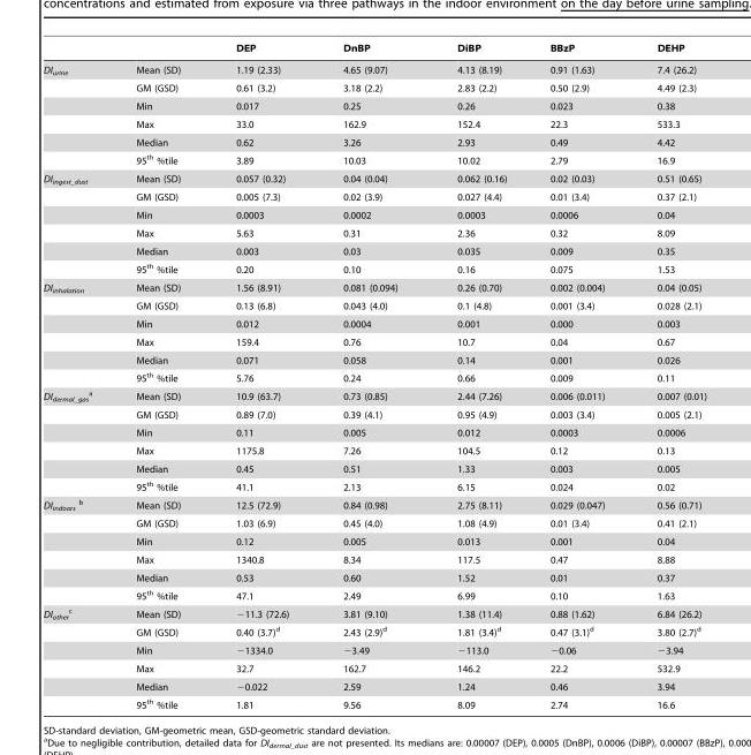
<table><thead><tr><td></td><td></td><td>DEP</td><td>DnBP</td><td>DiBP</td><td>BBzP</td><td>DEHP</td></tr></thead><tbody><tr><td rowspan="6">DI<sub>urine</sub></td><td>Mean (SD)</td><td>1.19 (2.33)</td><td>4.65 (9.07)</td><td>4.13 (8.19)</td><td>0.91 (1.63)</td><td>7.4 (26.2)</td></tr><tr><td>GM (GSD)</td><td>0.61 (3.2)</td><td>3.18 (2.2)</td><td>2.83 (2.2)</td><td>0.50 (2.9)</td><td>4.49 (2.3)</td></tr><tr><td>Min</td><td>0.017</td><td>0.25</td><td>0.26</td><td>0.023</td><td>0.38</td></tr><tr><td>Max</td><td>33.0</td><td>162.9</td><td>152.4</td><td>22.3</td><td>533.3</td></tr><tr><td>Median</td><td>0.62</td><td>3.26</td><td>2.93</td><td>0.49</td><td>4.42</td></tr><tr><td>95<sup>th</sup> %tile</td><td>3.89</td><td>10.03</td><td>10.02</td><td>2.79</td><td>16.9</td></tr><tr><td rowspan="6">DI<sub>ingest_dust</sub></td><td>Mean (SD)</td><td>0.057 (0.32)</td><td>0.04 (0.04)</td><td>0.062 (0.16)</td><td>0.02 (0.03)</td><td>0.51 (0.65)</td></tr><tr><td>GM (GSD)</td><td>0.005 (7.3)</td><td>0.02 (3.9)</td><td>0.027 (4.4)</td><td>0.01 (3.4)</td><td>0.37 (2.1)</td></tr><tr><td>Min</td><td>0.0003</td><td>0.0002</td><td>0.0003</td><td>0.0006</td><td>0.04</td></tr><tr><td>Max</td><td>5.63</td><td>0.31</td><td>2.36</td><td>0.32</td><td>8.09</td></tr><tr><td>Median</td><td>0.003</td><td>0.03</td><td>0.035</td><td>0.009</td><td>0.35</td></tr><tr><td>95<sup>th</sup> %tile</td><td>0.20</td><td>0.10</td><td>0.16</td><td>0.075</td><td>1.53</td></tr><tr><td rowspan="6">DI<sub>inhalation</sub></td><td>Mean (SD)</td><td>1.56 (8.91)</td><td>0.081 (0.094)</td><td>0.26 (0.70)</td><td>0.002 (0.004)</td><td>0.04 (0.05)</td></tr><tr><td>GM (GSD)</td><td>0.13 (6.8)</td><td>0.043 (4.0)</td><td>0.1 (4.8)</td><td>0.001 (3.4)</td><td>0.028 (2.1)</td></tr><tr><td>Min</td><td>0.012</td><td>0.0004</td><td>0.001</td><td>0.000</td><td>0.003</td></tr><tr><td>Max</td><td>159.4</td><td>0.76</td><td>10.7</td><td>0.04</td><td>0.67</td></tr><tr><td>Median</td><td>0.071</td><td>0.058</td><td>0.14</td><td>0.001</td><td>0.026</td></tr><tr><td>95<sup>th</sup> %tile</td><td>5.76</td><td>0.24</td><td>0.66</td><td>0.009</td><td>0.11</td></tr><tr><td rowspan="6">DI<sub>dermal_gas</sub> a</td><td>Mean (SD)</td><td>10.9 (63.7)</td><td>0.73 (0.85)</td><td>2.44 (7.26)</td><td>0.006 (0.011)</td><td>0.007 (0.01)</td></tr><tr><td>GM (GSD)</td><td>0.89 (7.0)</td><td>0.39 (4.1)</td><td>0.95 (4.9)</td><td>0.003 (3.4)</td><td>0.005 (2.1)</td></tr><tr><td>Min</td><td>0.11</td><td>0.005</td><td>0.012</td><td>0.0003</td><td>0.0006</td></tr><tr><td>Max</td><td>1175.8</td><td>7.26</td><td>104.5</td><td>0.12</td><td>0.13</td></tr><tr><td>Median</td><td>0.45</td><td>0.51</td><td>1.33</td><td>0.003</td><td>0.005</td></tr><tr><td>95<sup>th</sup> %tile</td><td>41.1</td><td>2.13</td><td>6.15</td><td>0.024</td><td>0.02</td></tr><tr><td rowspan="6">DI<sub>indoors</sub> b</td><td>Mean (SD)</td><td>12.5 (72.9)</td><td>0.84 (0.98)</td><td>2.75 (8.11)</td><td>0.029 (0.047)</td><td>0.56 (0.71)</td></tr><tr><td>GM (GSD)</td><td>1.03 (6.9)</td><td>0.45 (4.0)</td><td>1.08 (4.9)</td><td>0.01 (3.4)</td><td>0.41 (2.1)</td></tr><tr><td>Min</td><td>0.12</td><td>0.005</td><td>0.013</td><td>0.001</td><td>0.04</td></tr><tr><td>Max</td><td>1340.8</td><td>8.34</td><td>117.5</td><td>0.47</td><td>8.88</td></tr><tr><td>Median</td><td>0.53</td><td>0.60</td><td>1.52</td><td>0.01</td><td>0.37</td></tr><tr><td>95<sup>th</sup> %tile</td><td>47.1</td><td>2.49</td><td>6.99</td><td>0.10</td><td>1.63</td></tr><tr><td rowspan="6">DI<sub>other</sub> c</td><td>Mean (SD)</td><td>−11.3 (72.6)</td><td>3.81 (9.10)</td><td>1.38 (11.4)</td><td>0.88 (1.62)</td><td>6.84 (26.2)</td></tr><tr><td>GM (GSD)</td><td>0.40 (3.7)<sup>d</sup></td><td>2.43 (2.9)<sup>d</sup></td><td>1.81 (3.4)<sup>d</sup></td><td>0.47 (3.1)<sup>d</sup></td><td>3.80 (2.7)<sup>d</sup></td></tr><tr><td>Min</td><td>−1334.0</td><td>−3.49</td><td>−113.0</td><td>−0.06</td><td>−3.94</td></tr><tr><td>Max</td><td>32.7</td><td>162.7</td><td>146.2</td><td>22.2</td><td>532.9</td></tr><tr><td>Median</td><td>−0.022</td><td>2.59</td><td>1.24</td><td>0.46</td><td>3.94</td></tr><tr><td>95<sup>th</sup> %tile</td><td>1.81</td><td>9.56</td><td>8.09</td><td>2.74</td><td>16.6</td></tr></tbody></table>